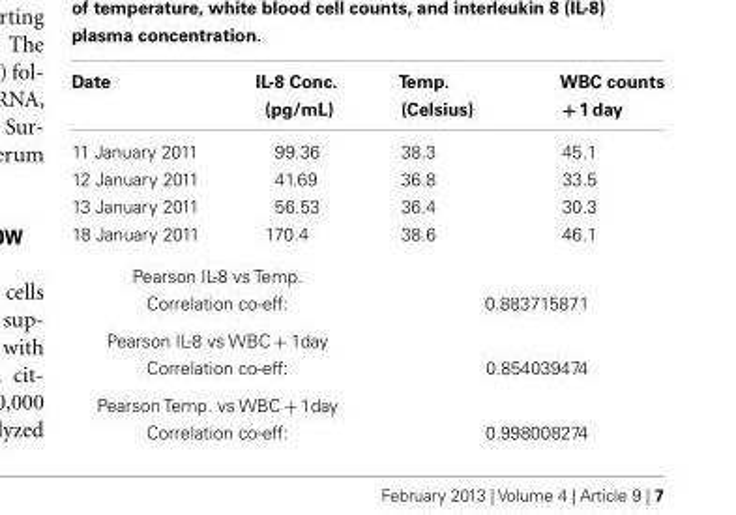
<table><thead><tr><td>Date</td><td>IL-8 Conc. (pg/mL)</td><td>Temp. (Celsius)</td><td>WBC counts + 1 day</td></tr></thead><tbody><tr><td>11 January 2011</td><td>99.36</td><td>38.3</td><td>45.1</td></tr><tr><td>12 January 2011</td><td>41.69</td><td>36.8</td><td>33.5</td></tr><tr><td>13 January 2011</td><td>56.53</td><td>36.4</td><td>30.3</td></tr><tr><td>18 January 2011</td><td>170.4</td><td>38.6</td><td>46.1</td></tr><tr><td colspan="2">Pearson IL-8 vs Temp. Correlation co-eff:</td><td colspan="2">0.883715871</td></tr><tr><td colspan="2">Pearson IL-8 vs WBC + 1day Correlation co-eff:</td><td colspan="2">0.854039474</td></tr><tr><td colspan="2">Pearson Temp. vs WBC + 1day Correlation co-eff:</td><td colspan="2">0.998008274</td></tr></tbody></table>